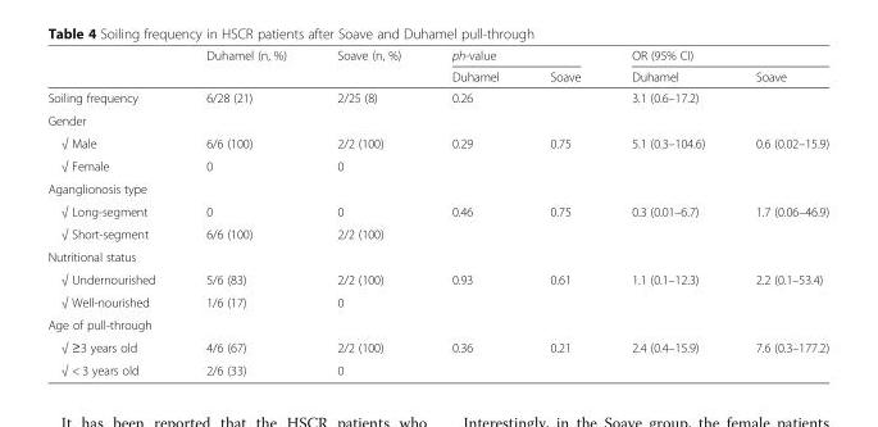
<table><thead><tr><td rowspan="2"></td><td rowspan="2">Duhamel (n, %)</td><td rowspan="2">Soave (n, %)</td><td colspan="2">ph-value</td><td colspan="2">OR (95% CI)</td></tr><tr><td>Duhamel</td><td>Soave</td><td>Duhamel</td><td>Soave</td></tr></thead><tbody><tr><td>Soiling frequency</td><td>6/28 (21)</td><td>2/25 (8)</td><td>0.26</td><td></td><td>3.1 (0.6–17.2)</td><td></td></tr><tr><td colspan="7">Gender</td></tr><tr><td>√ Male</td><td>6/6 (100)</td><td>2/2 (100)</td><td>0.29</td><td>0.75</td><td>5.1 (0.3–104.6)</td><td>0.6 (0.02–15.9)</td></tr><tr><td>√ Female</td><td>0</td><td>0</td><td></td><td></td><td></td><td></td></tr><tr><td colspan="7">Aganglionosis type</td></tr><tr><td>√ Long-segment</td><td>0</td><td>0</td><td>0.46</td><td>0.75</td><td>0.3 (0.01–6.7)</td><td>1.7 (0.06–46.9)</td></tr><tr><td>√ Short-segment</td><td>6/6 (100)</td><td>2/2 (100)</td><td></td><td></td><td></td><td></td></tr><tr><td colspan="7">Nutritional status</td></tr><tr><td>√ Undernourished</td><td>5/6 (83)</td><td>2/2 (100)</td><td>0.93</td><td>0.61</td><td>1.1 (0.1–12.3)</td><td>2.2 (0.1–53.4)</td></tr><tr><td>√ Well-nourished</td><td>1/6 (17)</td><td>0</td><td></td><td></td><td></td><td></td></tr><tr><td colspan="7">Age of pull-through</td></tr><tr><td>√ ≥3 years old</td><td>4/6 (67)</td><td>2/2 (100)</td><td>0.36</td><td>0.21</td><td>2.4 (0.4–15.9)</td><td>7.6 (0.3–177.2)</td></tr><tr><td>√ &lt; 3 years old</td><td>2/6 (33)</td><td>0</td><td></td><td></td><td></td><td></td></tr></tbody></table>